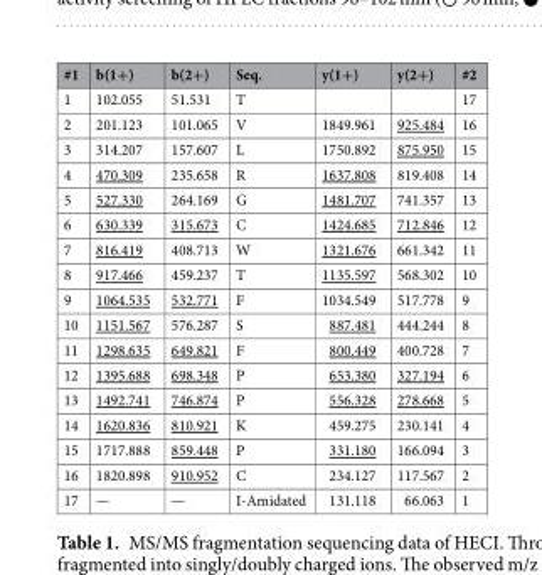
<table><thead><tr><td>#1</td><td>b(1+)</td><td>b(2+)</td><td>Seq.</td><td>y(1+)</td><td>y(2+)</td><td>#2</td></tr></thead><tbody><tr><td>1</td><td>102.055</td><td>51.531</td><td>T</td><td></td><td></td><td>17</td></tr><tr><td>2</td><td>201.123</td><td>101.065</td><td>V</td><td>1849.961</td><td>925.484</td><td>16</td></tr><tr><td>3</td><td>314.207</td><td>157.607</td><td>L</td><td>1750.892</td><td>875.950</td><td>15</td></tr><tr><td>4</td><td>470.309</td><td>235.658</td><td>R</td><td>1637.808</td><td>819.408</td><td>14</td></tr><tr><td>5</td><td>527.330</td><td>264.169</td><td>G</td><td>1481.707</td><td>741.357</td><td>13</td></tr><tr><td>6</td><td>630.339</td><td>315.673</td><td>C</td><td>1424.685</td><td>712.846</td><td>12</td></tr><tr><td>7</td><td>816.419</td><td>408.713</td><td>W</td><td>1321.676</td><td>661.342</td><td>11</td></tr><tr><td>8</td><td>917.466</td><td>459.237</td><td>T</td><td>1135.597</td><td>568.302</td><td>10</td></tr><tr><td>9</td><td>1064.535</td><td>532.771</td><td>F</td><td>1034.549</td><td>517.778</td><td>9</td></tr><tr><td>10</td><td>1151.567</td><td>576.287</td><td>S</td><td>887.481</td><td>444.244</td><td>8</td></tr><tr><td>11</td><td>1298.635</td><td>649.821</td><td>F</td><td>800.449</td><td>400.728</td><td>7</td></tr><tr><td>12</td><td>1395.688</td><td>698.348</td><td>P</td><td>653.380</td><td>327.194</td><td>6</td></tr><tr><td>13</td><td>1492.741</td><td>746.874</td><td>P</td><td>556.328</td><td>278.668</td><td>5</td></tr><tr><td>14</td><td>1620.836</td><td>810.921</td><td>K</td><td>459.275</td><td>230.141</td><td>4</td></tr><tr><td>15</td><td>1717.888</td><td>859.448</td><td>P</td><td>331.180</td><td>166.094</td><td>3</td></tr><tr><td>16</td><td>1820.898</td><td>910.952</td><td>C</td><td>234.127</td><td>117.567</td><td>2</td></tr><tr><td>17</td><td>—</td><td>—</td><td>I-Amidated</td><td>131.118</td><td>66.063</td><td>1</td></tr></tbody></table>